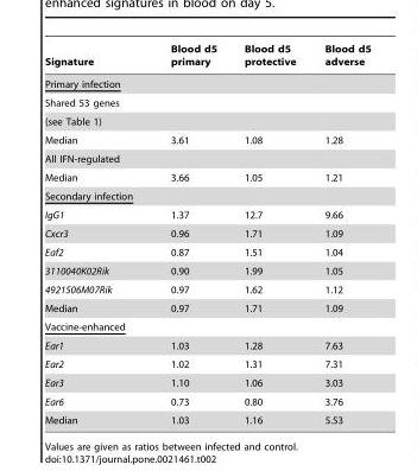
<table><thead><tr><td>Signature</td><td>Blood d5 primary</td><td>Blood d5 protective</td><td>Blood d5 adverse</td></tr></thead><tbody><tr><td colspan="4">Primary infection</td></tr><tr><td colspan="4">Shared 53 genes</td></tr><tr><td colspan="4">(see Table 1)</td></tr><tr><td>Median</td><td>3.61</td><td>1.08</td><td>1.28</td></tr><tr><td colspan="4">All IFN-regulated</td></tr><tr><td>Median</td><td>3.66</td><td>1.05</td><td>1.21</td></tr><tr><td colspan="4">Secondary infection</td></tr><tr><td>IgG1</td><td>1.37</td><td>12.7</td><td>9.66</td></tr><tr><td>Cxcr3</td><td>0.96</td><td>1.71</td><td>1.09</td></tr><tr><td>Eaf2</td><td>0.87</td><td>1.51</td><td>1.04</td></tr><tr><td>3110040K02Rik</td><td>0.90</td><td>1.99</td><td>1.05</td></tr><tr><td>4921506M07Rik</td><td>0.97</td><td>1.62</td><td>1.12</td></tr><tr><td>Median</td><td>0.97</td><td>1.71</td><td>1.09</td></tr><tr><td colspan="4">Vaccine-enhanced</td></tr><tr><td>Ear1</td><td>1.03</td><td>1.28</td><td>7.63</td></tr><tr><td>Ear2</td><td>1.02</td><td>1.31</td><td>7.31</td></tr><tr><td>Ear3</td><td>1.10</td><td>1.06</td><td>3.03</td></tr><tr><td>Ear6</td><td>0.73</td><td>0.80</td><td>3.76</td></tr><tr><td>Median</td><td>1.03</td><td>1.16</td><td>5.53</td></tr></tbody></table>